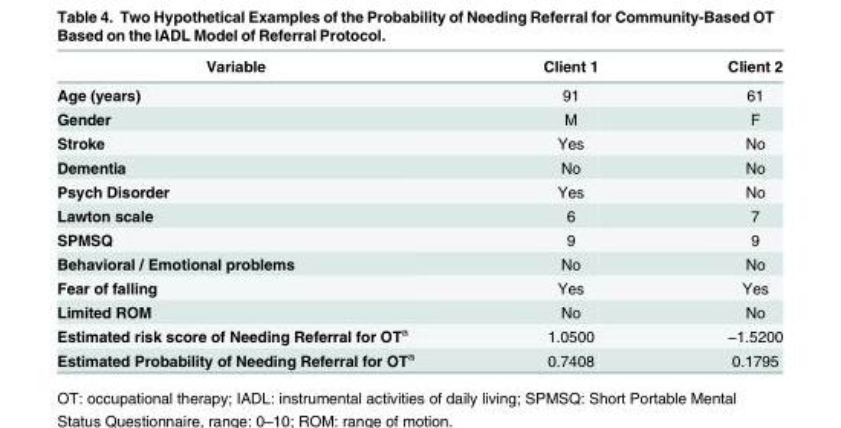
<table><thead><tr><td>Variable</td><td>Client 1</td><td>Client 2</td></tr></thead><tbody><tr><td>Age (years)</td><td>91</td><td>61</td></tr><tr><td>Gender</td><td>M</td><td>F</td></tr><tr><td>Stroke</td><td>Yes</td><td>No</td></tr><tr><td>Dementia</td><td>No</td><td>No</td></tr><tr><td>Psych Disorder</td><td>Yes</td><td>No</td></tr><tr><td>Lawton scale</td><td>6</td><td>7</td></tr><tr><td>SPMSQ</td><td>9</td><td>9</td></tr><tr><td>Behavioral / Emotional problems</td><td>No</td><td>No</td></tr><tr><td>Fear of falling</td><td>Yes</td><td>Yes</td></tr><tr><td>Limited ROM</td><td>No</td><td>No</td></tr><tr><td>Estimated risk score of Needing Referral for OT<sup>a</sup></td><td>1.0500</td><td>−1.5200</td></tr><tr><td>Estimated Probability of Needing Referral for OT<sup>a</sup></td><td>0.7408</td><td>0.1795</td></tr></tbody></table>